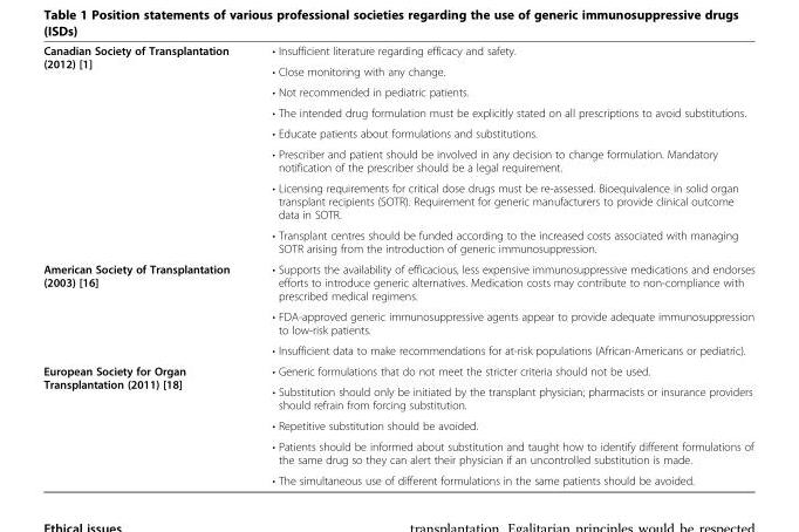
<table><tbody><tr><td rowspan="8">Canadian Society of Transplantation (2012) [1]</td><td>• Insufficient literature regarding efficacy and safety.</td></tr><tr><td>• Close monitoring with any change.</td></tr><tr><td>• Not recommended in pediatric patients.</td></tr><tr><td>• The intended drug formulation must be explicitly stated on all prescriptions to avoid substitutions.</td></tr><tr><td>• Educate patients about formulations and substitutions.</td></tr><tr><td>• Prescriber and patient should be involved in any decision to change formulation. Mandatory notification of the prescriber should be a legal requirement.</td></tr><tr><td>• Licensing requirements for critical dose drugs must be re-assessed. Bioequivalence in solid organ transplant recipients (SOTR). Requirement for generic manufacturers to provide clinical outcome data in SOTR.</td></tr><tr><td>• Transplant centres should be funded according to the increased costs associated with managing SOTR arising from the introduction of generic immunosuppression.</td></tr><tr><td rowspan="3">American Society of Transplantation (2003) [16]</td><td>• Supports the availability of efficacious, less expensive immunosuppressive medications and endorses efforts to introduce generic alternatives. Medication costs may contribute to non-compliance with prescribed medical regimens.</td></tr><tr><td>• FDA-approved generic immunosuppressive agents appear to provide adequate immunosuppression to low-risk patients.</td></tr><tr><td>• Insufficient data to make recommendations for at-risk populations (African-Americans or pediatric).</td></tr><tr><td rowspan="5">European Society for Organ Transplantation (2011) [18]</td><td>• Generic formulations that do not meet the stricter criteria should not be used.</td></tr><tr><td>• Substitution should only be initiated by the transplant physician; pharmacists or insurance providers should refrain from forcing substitution.</td></tr><tr><td>• Repetitive substitution should be avoided.</td></tr><tr><td>• Patients should be informed about substitution and taught how to identify different formulations of the same drug so they can alert their physician if an uncontrolled substitution is made.</td></tr><tr><td>• The simultaneous use of different formulations in the same patients should be avoided.</td></tr></tbody></table>